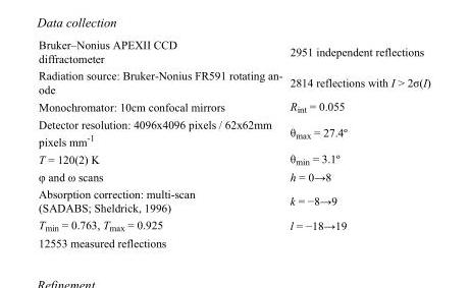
<table><tbody><tr><td>Bruker–Nonius APEXII CCD diffractometer</td><td>2951 independent reflections</td></tr><tr><td>Radiation source: Bruker-Nonius FR591 rotating an- ode</td><td>2814 reflections with I &gt; 2σ(I)</td></tr><tr><td>Monochromator: 10cm confocal mirrors</td><td>R<sub>int</sub> = 0.055</td></tr><tr><td>Detector resolution: 4096x4096 pixels / 62x62mm pixels mm<sup>-1</sup></td><td>θ<sub>max</sub> = 27.4º</td></tr><tr><td>T = 120(2) K</td><td>θ<sub>min</sub> = 3.1º</td></tr><tr><td>φ and ω scans</td><td>h = 0→8</td></tr><tr><td>Absorption correction: multi-scan (SADABS; Sheldrick, 1996)</td><td>k = −8→9</td></tr><tr><td>T<sub>min</sub> = 0.763, T<sub>max</sub> = 0.925</td><td>l = −18→19</td></tr><tr><td>12553 measured reflections</td><td></td></tr></tbody></table>